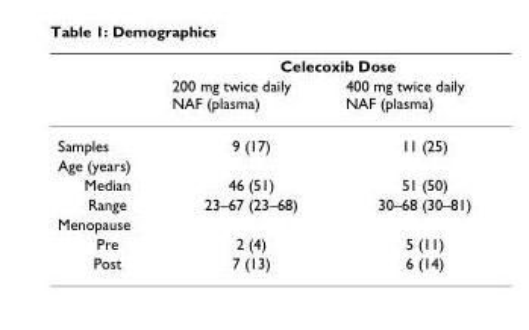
<table><thead><tr><td rowspan="2"></td><td colspan="2">Celecoxib Dose</td></tr><tr><td>200 mg twice daily NAF (plasma)</td><td>400 mg twice daily NAF (plasma)</td></tr></thead><tbody><tr><td>Samples</td><td>9 (17)</td><td>11 (25)</td></tr><tr><td colspan="3">Age (years)</td></tr><tr><td>Median</td><td>46 (51)</td><td>51 (50)</td></tr><tr><td>Range</td><td>23–67 (23–68)</td><td>30–68 (30–81)</td></tr><tr><td colspan="3">Menopause</td></tr><tr><td>Pre</td><td>2 (4)</td><td>5 (11)</td></tr><tr><td>Post</td><td>7 (13)</td><td>6 (14)</td></tr></tbody></table>